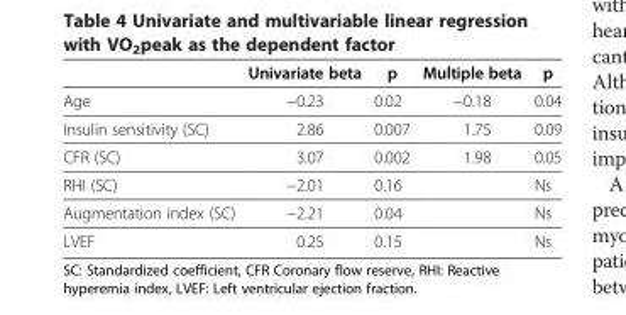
<table><thead><tr><td></td><td>Univariate beta</td><td>p</td><td>Multiple beta</td><td>p</td></tr></thead><tbody><tr><td>Age</td><td>−0.23</td><td>0.02</td><td>−0.18</td><td>0.04</td></tr><tr><td>Insulin sensitivity (SC)</td><td>2.86</td><td>0.007</td><td>1.75</td><td>0.09</td></tr><tr><td>CFR (SC)</td><td>3.07</td><td>0.002</td><td>1.98</td><td>0.05</td></tr><tr><td>RHI (SC)</td><td>−2.01</td><td>0.16</td><td></td><td>Ns</td></tr><tr><td>Augmentation index (SC)</td><td>−2.21</td><td>0.04</td><td></td><td>Ns</td></tr><tr><td>LVEF</td><td>0.25</td><td>0.15</td><td></td><td>Ns</td></tr></tbody></table>